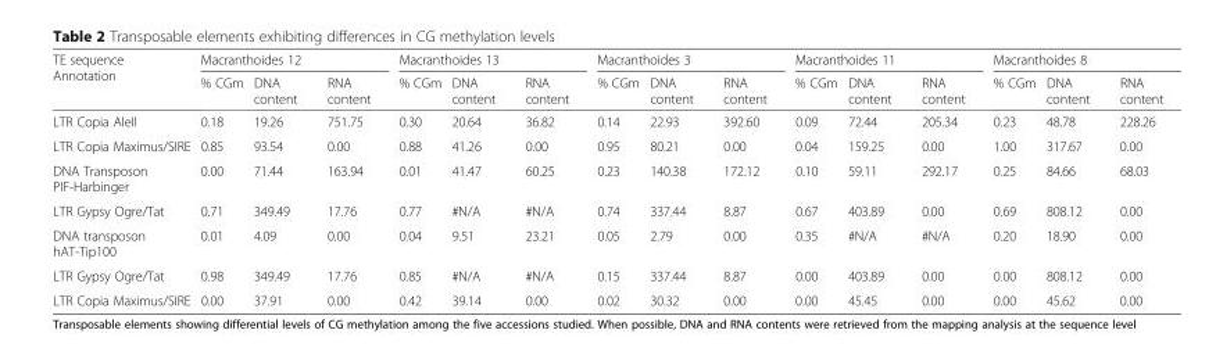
<table><thead><tr><td rowspan="2">TE sequence Annotation</td><td colspan="3">Macranthoides 12</td><td colspan="3">Macranthoides 13</td><td colspan="3">Macranthoides 3</td><td colspan="3">Macranthoides 11</td><td colspan="3">Macranthoides 8</td></tr><tr><td>% CGm</td><td>DNA content</td><td>RNA content</td><td>% CGm</td><td>DNA content</td><td>RNA content</td><td>% CGm</td><td>DNA content</td><td>RNA content</td><td>% CGm</td><td>DNA content</td><td>RNA content</td><td>% CGm</td><td>DNA content</td><td>RNA content</td></tr></thead><tbody><tr><td>LTR Copia AleII</td><td>0.18</td><td>19.26</td><td>751.75</td><td>0.30</td><td>20.64</td><td>36.82</td><td>0.14</td><td>22.93</td><td>392.60</td><td>0.09</td><td>72.44</td><td>205.34</td><td>0.23</td><td>48.78</td><td>228.26</td></tr><tr><td>LTR Copia Maximus/SIRE</td><td>0.85</td><td>93.54</td><td>0.00</td><td>0.88</td><td>41.26</td><td>0.00</td><td>0.95</td><td>80.21</td><td>0.00</td><td>0.04</td><td>159.25</td><td>0.00</td><td>1.00</td><td>317.67</td><td>0.00</td></tr><tr><td>DNA Transposon PIF-Harbinger</td><td>0.00</td><td>71.44</td><td>163.94</td><td>0.01</td><td>41.47</td><td>60.25</td><td>0.23</td><td>140.38</td><td>172.12</td><td>0.10</td><td>59.11</td><td>292.17</td><td>0.25</td><td>84.66</td><td>68.03</td></tr><tr><td>LTR Gypsy Ogre/Tat</td><td>0.71</td><td>349.49</td><td>17.76</td><td>0.77</td><td>#N/A</td><td>#N/A</td><td>0.74</td><td>337.44</td><td>8.87</td><td>0.67</td><td>403.89</td><td>0.00</td><td>0.69</td><td>808.12</td><td>0.00</td></tr><tr><td>DNA transposon hAT-Tip100</td><td>0.01</td><td>4.09</td><td>0.00</td><td>0.04</td><td>9.51</td><td>23.21</td><td>0.05</td><td>2.79</td><td>0.00</td><td>0.35</td><td>#N/A</td><td>#N/A</td><td>0.20</td><td>18.90</td><td>0.00</td></tr><tr><td>LTR Gypsy Ogre/Tat</td><td>0.98</td><td>349.49</td><td>17.76</td><td>0.85</td><td>#N/A</td><td>#N/A</td><td>0.15</td><td>337.44</td><td>8.87</td><td>0.00</td><td>403.89</td><td>0.00</td><td>0.00</td><td>808.12</td><td>0.00</td></tr><tr><td>LTR Copia Maximus/SIRE</td><td>0.00</td><td>37.91</td><td>0.00</td><td>0.42</td><td>39.14</td><td>0.00</td><td>0.02</td><td>30.32</td><td>0.00</td><td>0.00</td><td>45.45</td><td>0.00</td><td>0.00</td><td>45.62</td><td>0.00</td></tr></tbody></table>